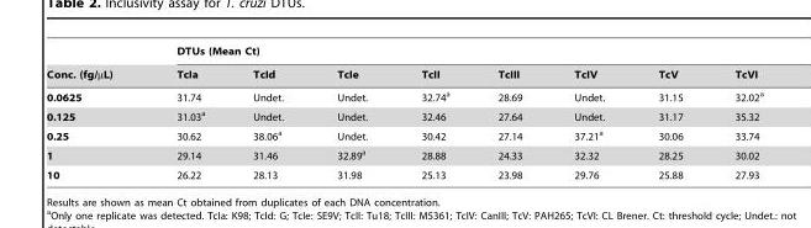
<table><thead><tr><td rowspan="2">Conc. (fg/µL)</td><td colspan="8">DTUs (Mean Ct)</td></tr><tr><td>TcIa</td><td>TcId</td><td>TcIe</td><td>TcII</td><td>TcIII</td><td>TcIV</td><td>TcV</td><td>TcVI</td></tr></thead><tbody><tr><td>0.0625</td><td>31.74</td><td>Undet.</td><td>Undet.</td><td>32.74<sup>a</sup></td><td>28.69</td><td>Undet.</td><td>31.15</td><td>32.02<sup>a</sup></td></tr><tr><td>0.125</td><td>31.03<sup>a</sup></td><td>Undet.</td><td>Undet.</td><td>32.46</td><td>27.64</td><td>Undet.</td><td>31.17</td><td>35.32</td></tr><tr><td>0.25</td><td>30.62</td><td>38.06<sup>a</sup></td><td>Undet.</td><td>30.42</td><td>27.14</td><td>37.21<sup>a</sup></td><td>30.06</td><td>33.74</td></tr><tr><td>1</td><td>29.14</td><td>31.46</td><td>32.89<sup>a</sup></td><td>28.88</td><td>24.33</td><td>32.32</td><td>28.25</td><td>30.02</td></tr><tr><td>10</td><td>26.22</td><td>28.13</td><td>31.98</td><td>25.13</td><td>23.98</td><td>29.76</td><td>25.88</td><td>27.93</td></tr></tbody></table>